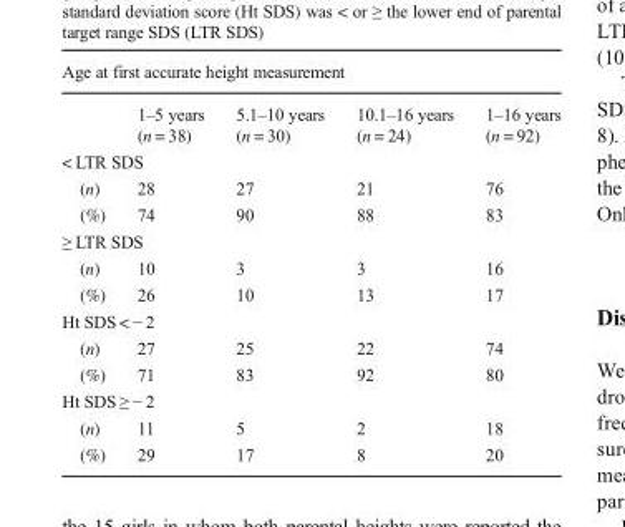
<table><thead><tr><td colspan="5">Age at first accurate height measurement</td></tr><tr><td></td><td>1–5 years (n = 38)</td><td>5.1–10 years (n = 30)</td><td>10.1–16 years (n = 24)</td><td>1–16 years (n = 92)</td></tr></thead><tbody><tr><td colspan="5">&lt; LTR SDS</td></tr><tr><td>(n)</td><td>28</td><td>27</td><td>21</td><td>76</td></tr><tr><td>(%)</td><td>74</td><td>90</td><td>88</td><td>83</td></tr><tr><td colspan="5">≥ LTR SDS</td></tr><tr><td>(n)</td><td>10</td><td>3</td><td>3</td><td>16</td></tr><tr><td>(%)</td><td>26</td><td>10</td><td>13</td><td>17</td></tr><tr><td colspan="5">Ht SDS &lt; − 2</td></tr><tr><td>(n)</td><td>27</td><td>25</td><td>22</td><td>74</td></tr><tr><td>(%)</td><td>71</td><td>83</td><td>92</td><td>80</td></tr><tr><td colspan="5">Ht SDS ≥ − 2</td></tr><tr><td>(n)</td><td>11</td><td>5</td><td>2</td><td>18</td></tr><tr><td>(%)</td><td>29</td><td>17</td><td>8</td><td>20</td></tr></tbody></table>